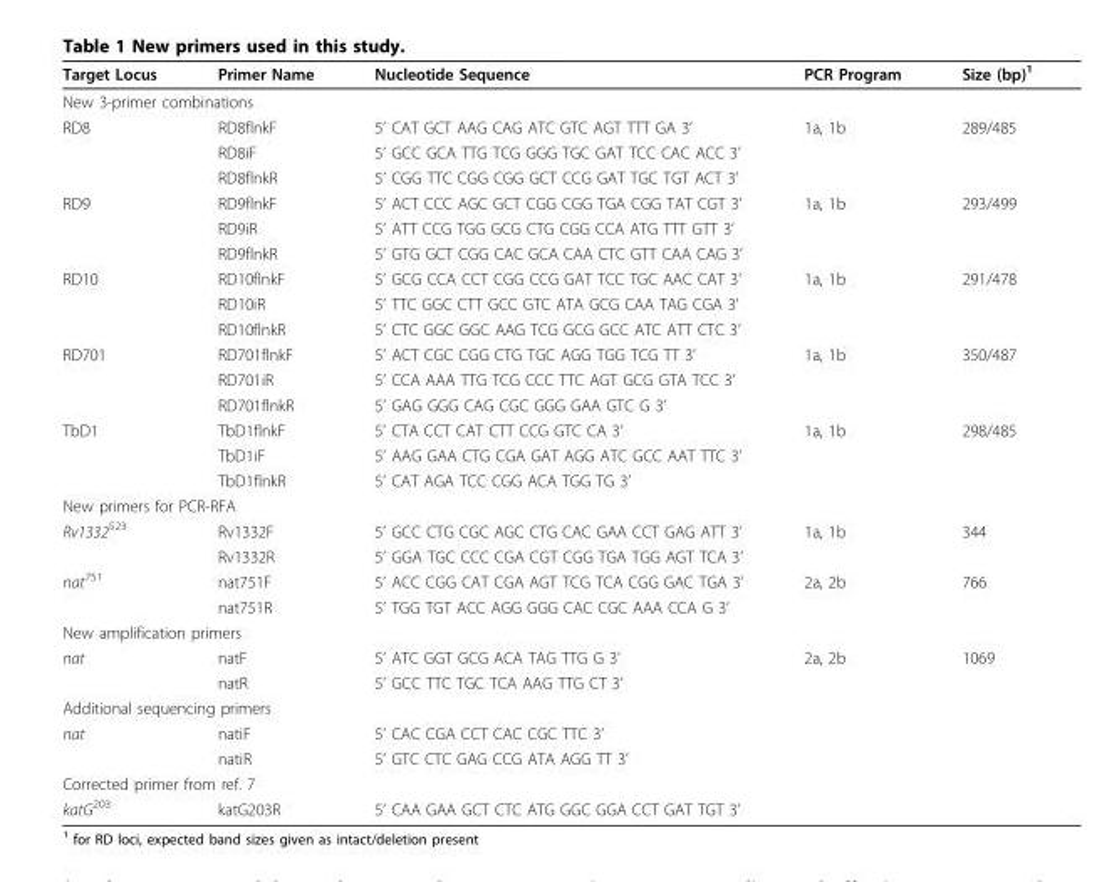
<table><thead><tr><td>Target Locus</td><td>Primer Name</td><td>Nucleotide Sequence</td><td>PCR Program</td><td>Size (bp)<sup>1</sup></td></tr></thead><tbody><tr><td colspan="5">New 3-primer combinations</td></tr><tr><td rowspan="3">RD8</td><td>RD8flnkF</td><td>5’ CAT GCT AAG CAG ATC GTC AGT TTT GA 3’</td><td>1a, 1b</td><td>289/485</td></tr><tr><td>RD8iF</td><td>5’ GCC GCA TTG TCG GGG TGC GAT TCC CAC ACC 3’</td><td></td><td></td></tr><tr><td>RD8flnkR</td><td>5’ CGG TTC CGG CGG GCT CCG GAT TGC TGT ACT 3’</td><td></td><td></td></tr><tr><td rowspan="3">RD9</td><td>RD9flnkF</td><td>5’ ACT CCC AGC GCT CGG CGG TGA CGG TAT CGT 3’</td><td>1a, 1b</td><td>293/499</td></tr><tr><td>RD9iR</td><td>5’ ATT CCG TGG GCG CTG CGG CCA ATG TTT GTT 3’</td><td></td><td></td></tr><tr><td>RD9flnkR</td><td>5’ GTG GCT CGG CAC GCA CAA CTC GTT CAA CAG 3’</td><td></td><td></td></tr><tr><td rowspan="3">RD10</td><td>RD10flnkF</td><td>5’ GCG CCA CCT CGG CCG GAT TCC TGC AAC CAT 3’</td><td>1a, 1b</td><td>291/478</td></tr><tr><td>RD10iR</td><td>5’ TTC GGC CTT GCC GTC ATA GCG CAA TAG CGA 3’</td><td></td><td></td></tr><tr><td>RD10flnkR</td><td>5’ CTC GGC GGC AAG TCG GCG GCC ATC ATT CTC 3’</td><td></td><td></td></tr><tr><td rowspan="3">RD701</td><td>RD701flnkF</td><td>5’ ACT CGC CGG CTG TGC AGG TGG TCG TT 3’</td><td>1a, 1b</td><td>350/487</td></tr><tr><td>RD701iR</td><td>5’ CCA AAA TTG TCG CCC TTC AGT GCG GTA TCC 3’</td><td></td><td></td></tr><tr><td>RD701flnkR</td><td>5’ GAG GGG CAG CGC GGG GAA GTC G 3’</td><td></td><td></td></tr><tr><td rowspan="3">TbD1</td><td>TbD1flnkF</td><td>5’ CTA CCT CAT CTT CCG GTC CA 3’</td><td>1a, 1b</td><td>298/485</td></tr><tr><td>TbD1iF</td><td>5’ AAG GAA CTG CGA GAT AGG ATC GCC AAT TTC 3’</td><td></td><td></td></tr><tr><td>TbD1flnkR</td><td>5’ CAT AGA TCC CGG ACA TGG TG 3’</td><td></td><td></td></tr><tr><td colspan="5">New primers for PCR-RFA</td></tr><tr><td rowspan="2">Rv1332<sup>523</sup></td><td>Rv1332F</td><td>5’ GCC CTG CGC AGC CTG CAC GAA CCT GAG ATT 3’</td><td>1a, 1b</td><td>344</td></tr><tr><td>Rv1332R</td><td>5’ GGA TGC CCC CGA CGT CGG TGA TGG AGT TCA 3’</td><td></td><td></td></tr><tr><td rowspan="2">nat<sup>751</sup></td><td>nat751F</td><td>5’ ACC CGG CAT CGA AGT TCG TCA CGG GAC TGA 3’</td><td>2a, 2b</td><td>766</td></tr><tr><td>nat751R</td><td>5’ TGG TGT ACC AGG GGG CAC CGC AAA CCA G 3’</td><td></td><td></td></tr><tr><td colspan="5">New amplification primers</td></tr><tr><td rowspan="2">nat</td><td>natF</td><td>5’ ATC GGT GCG ACA TAG TTG G 3’</td><td>2a, 2b</td><td>1069</td></tr><tr><td>natR</td><td>5’ GCC TTC TGC TCA AAG TTG CT 3’</td><td></td><td></td></tr><tr><td colspan="5">Additional sequencing primers</td></tr><tr><td rowspan="2">nat</td><td>natiF</td><td>5’ CAC CGA CCT CAC CGC TTC 3’</td><td></td><td></td></tr><tr><td>natiR</td><td>5’ GTC CTC GAG CCG ATA AGG TT 3’</td><td></td><td></td></tr><tr><td colspan="5">Corrected primer from ref. 7</td></tr><tr><td>katG<sup>203</sup></td><td>katG203R</td><td>5’ CAA GAA GCT CTC ATG GGC GGA CCT GAT TGT 3’</td><td></td><td></td></tr></tbody></table>